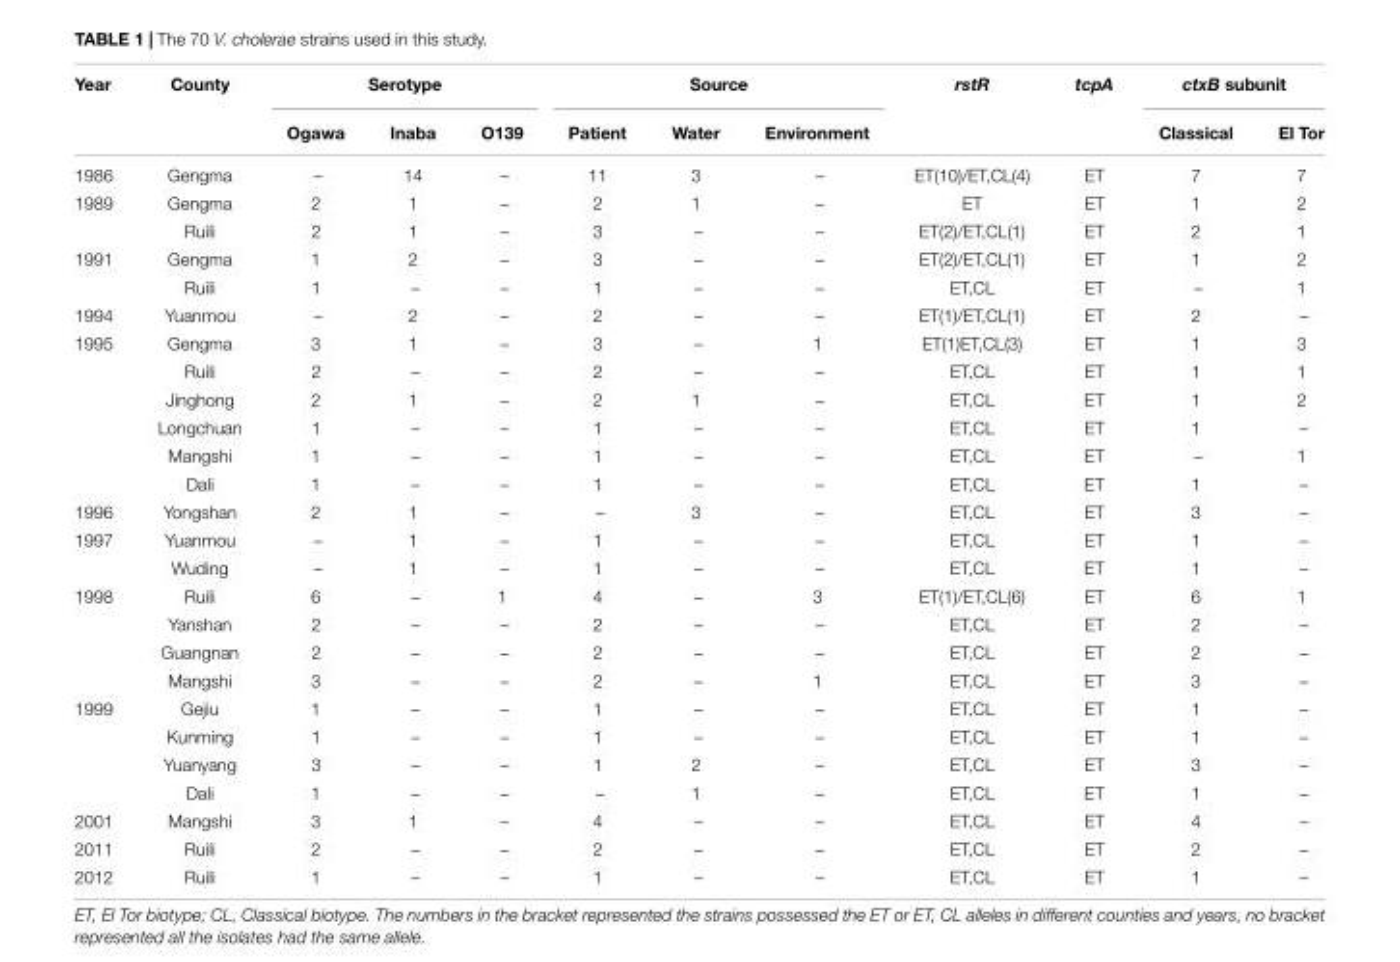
<table><thead><tr><td rowspan="2">Year</td><td rowspan="2">County</td><td colspan="3">Serotype</td><td colspan="3">Source</td><td rowspan="2">rstR</td><td rowspan="2">tcpA</td><td colspan="2">ctxB subunit</td></tr><tr><td>Ogawa</td><td>Inaba</td><td>O139</td><td>Patient</td><td>Water</td><td>Environment</td><td>Classical</td><td>El Tor</td></tr></thead><tbody><tr><td>1986</td><td>Gengma</td><td>–</td><td>14</td><td>–</td><td>11</td><td>3</td><td>–</td><td>ET(10)/ET,CL(4)</td><td>ET</td><td>7</td><td>7</td></tr><tr><td rowspan="2">1989</td><td>Gengma</td><td>2</td><td>1</td><td>–</td><td>2</td><td>1</td><td>–</td><td>ET</td><td>ET</td><td>1</td><td>2</td></tr><tr><td>Ruili</td><td>2</td><td>1</td><td>–</td><td>3</td><td>–</td><td>–</td><td>ET(2)/ET,CL(1)</td><td>ET</td><td>2</td><td>1</td></tr><tr><td rowspan="2">1991</td><td>Gengma</td><td>1</td><td>2</td><td>–</td><td>3</td><td>–</td><td>–</td><td>ET(2)/ET,CL(1)</td><td>ET</td><td>1</td><td>2</td></tr><tr><td>Ruili</td><td>1</td><td>–</td><td>–</td><td>1</td><td>–</td><td>–</td><td>ET,CL</td><td>ET</td><td>–</td><td>1</td></tr><tr><td>1994</td><td>Yuanmou</td><td>–</td><td>2</td><td>–</td><td>2</td><td>–</td><td>–</td><td>ET(1)/ET,CL(1)</td><td>ET</td><td>2</td><td>–</td></tr><tr><td rowspan="6">1995</td><td>Gengma</td><td>3</td><td>1</td><td>–</td><td>3</td><td>–</td><td>1</td><td>ET(1)ET,CL(3)</td><td>ET</td><td>1</td><td>3</td></tr><tr><td>Ruili</td><td>2</td><td>–</td><td>–</td><td>2</td><td>–</td><td>–</td><td>ET,CL</td><td>ET</td><td>1</td><td>1</td></tr><tr><td>Jinghong</td><td>2</td><td>1</td><td>–</td><td>2</td><td>1</td><td>–</td><td>ET,CL</td><td>ET</td><td>1</td><td>2</td></tr><tr><td>Longchuan</td><td>1</td><td>–</td><td>–</td><td>1</td><td>–</td><td>–</td><td>ET,CL</td><td>ET</td><td>1</td><td>–</td></tr><tr><td>Mangshi</td><td>1</td><td>–</td><td>–</td><td>1</td><td>–</td><td>–</td><td>ET,CL</td><td>ET</td><td>–</td><td>1</td></tr><tr><td>Dali</td><td>1</td><td>–</td><td>–</td><td>1</td><td>–</td><td>–</td><td>ET,CL</td><td>ET</td><td>1</td><td>–</td></tr><tr><td>1996</td><td>Yongshan</td><td>2</td><td>1</td><td>–</td><td>–</td><td>3</td><td>–</td><td>ET,CL</td><td>ET</td><td>3</td><td>–</td></tr><tr><td rowspan="2">1997</td><td>Yuanmou</td><td>–</td><td>1</td><td>–</td><td>1</td><td>–</td><td>–</td><td>ET,CL</td><td>ET</td><td>1</td><td>–</td></tr><tr><td>Wuding</td><td>–</td><td>1</td><td>–</td><td>1</td><td>–</td><td>–</td><td>ET,CL</td><td>ET</td><td>1</td><td>–</td></tr><tr><td rowspan="4">1998</td><td>Ruili</td><td>6</td><td>–</td><td>1</td><td>4</td><td>–</td><td>3</td><td>ET(1)/ET,CL(6)</td><td>ET</td><td>6</td><td>1</td></tr><tr><td>Yanshan</td><td>2</td><td>–</td><td>–</td><td>2</td><td>–</td><td>–</td><td>ET,CL</td><td>ET</td><td>2</td><td>–</td></tr><tr><td>Guangnan</td><td>2</td><td>–</td><td>–</td><td>2</td><td>–</td><td>–</td><td>ET,CL</td><td>ET</td><td>2</td><td>–</td></tr><tr><td>Mangshi</td><td>3</td><td>–</td><td>–</td><td>2</td><td>–</td><td>1</td><td>ET,CL</td><td>ET</td><td>3</td><td>–</td></tr><tr><td rowspan="4">1999</td><td>Gejiu</td><td>1</td><td>–</td><td>–</td><td>1</td><td>–</td><td>–</td><td>ET,CL</td><td>ET</td><td>1</td><td>–</td></tr><tr><td>Kunming</td><td>1</td><td>–</td><td>–</td><td>1</td><td>–</td><td>–</td><td>ET,CL</td><td>ET</td><td>1</td><td>–</td></tr><tr><td>Yuanyang</td><td>3</td><td>–</td><td>–</td><td>1</td><td>2</td><td>–</td><td>ET,CL</td><td>ET</td><td>3</td><td>–</td></tr><tr><td>Dali</td><td>1</td><td>–</td><td>–</td><td>–</td><td>1</td><td>–</td><td>ET,CL</td><td>ET</td><td>1</td><td>–</td></tr><tr><td>2001</td><td>Mangshi</td><td>3</td><td>1</td><td>–</td><td>4</td><td>–</td><td>–</td><td>ET,CL</td><td>ET</td><td>4</td><td>–</td></tr><tr><td>2011</td><td>Ruili</td><td>2</td><td>–</td><td>–</td><td>2</td><td>–</td><td>–</td><td>ET,CL</td><td>ET</td><td>2</td><td>–</td></tr><tr><td>2012</td><td>Ruili</td><td>1</td><td>–</td><td>–</td><td>1</td><td>–</td><td>–</td><td>ET,CL</td><td>ET</td><td>1</td><td>–</td></tr></tbody></table>